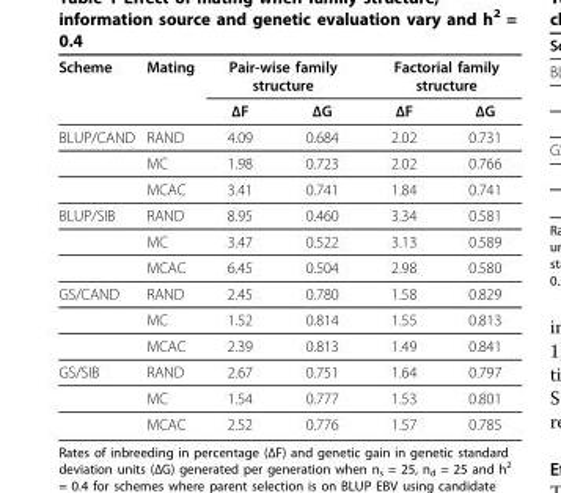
<table><thead><tr><td rowspan="2">Scheme</td><td rowspan="2">Mating</td><td colspan="2">Pair-wise family structure</td><td colspan="2">Factorial family structure</td></tr><tr><td>ΔF</td><td>ΔG</td><td>ΔF</td><td>ΔG</td></tr></thead><tbody><tr><td rowspan="3">BLUP/CAND</td><td>RAND</td><td>4.09</td><td>0.684</td><td>2.02</td><td>0.731</td></tr><tr><td>MC</td><td>1.98</td><td>0.723</td><td>2.02</td><td>0.766</td></tr><tr><td>MCAC</td><td>3.41</td><td>0.741</td><td>1.84</td><td>0.741</td></tr><tr><td rowspan="3">BLUP/SIB</td><td>RAND</td><td>8.95</td><td>0.460</td><td>3.34</td><td>0.581</td></tr><tr><td>MC</td><td>3.47</td><td>0.522</td><td>3.13</td><td>0.589</td></tr><tr><td>MCAC</td><td>6.45</td><td>0.504</td><td>2.98</td><td>0.580</td></tr><tr><td rowspan="3">GS/CAND</td><td>RAND</td><td>2.45</td><td>0.780</td><td>1.58</td><td>0.829</td></tr><tr><td>MC</td><td>1.52</td><td>0.814</td><td>1.55</td><td>0.813</td></tr><tr><td>MCAC</td><td>2.39</td><td>0.813</td><td>1.49</td><td>0.841</td></tr><tr><td rowspan="3">GS/SIB</td><td>RAND</td><td>2.67</td><td>0.751</td><td>1.64</td><td>0.797</td></tr><tr><td>MC</td><td>1.54</td><td>0.777</td><td>1.53</td><td>0.801</td></tr><tr><td>MCAC</td><td>2.52</td><td>0.776</td><td>1.57</td><td>0.785</td></tr></tbody></table>